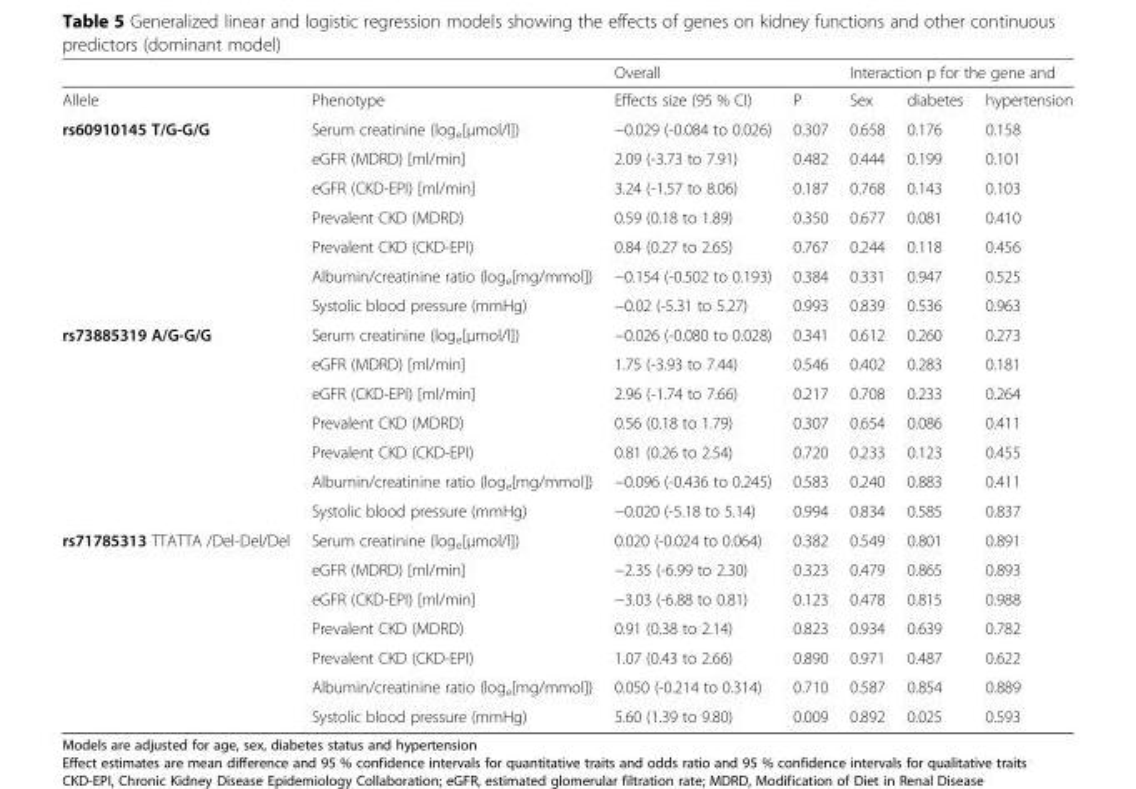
<table><thead><tr><td rowspan="2">Allele</td><td rowspan="2">Phenotype</td><td colspan="2">Overall</td><td colspan="3">Interaction p for the gene and</td></tr><tr><td>Effects size (95 % CI)</td><td>P</td><td>Sex</td><td>diabetes</td><td>hypertension</td></tr></thead><tbody><tr><td rowspan="7">rs60910145 T/G-G/G</td><td>Serum creatinine (log<sub>e</sub>[μmol/l])</td><td>−0.029 (-0.084 to 0.026)</td><td>0.307</td><td>0.658</td><td>0.176</td><td>0.158</td></tr><tr><td>eGFR (MDRD) [ml/min]</td><td>2.09 (-3.73 to 7.91)</td><td>0.482</td><td>0.444</td><td>0.199</td><td>0.101</td></tr><tr><td>eGFR (CKD-EPI) [ml/min]</td><td>3.24 (-1.57 to 8.06)</td><td>0.187</td><td>0.768</td><td>0.143</td><td>0.103</td></tr><tr><td>Prevalent CKD (MDRD)</td><td>0.59 (0.18 to 1.89)</td><td>0.350</td><td>0.677</td><td>0.081</td><td>0.410</td></tr><tr><td>Prevalent CKD (CKD-EPI)</td><td>0.84 (0.27 to 2.65)</td><td>0.767</td><td>0.244</td><td>0.118</td><td>0.456</td></tr><tr><td>Albumin/creatinine ratio (log<sub>e</sub>[mg/mmol])</td><td>−0.154 (-0.502 to 0.193)</td><td>0.384</td><td>0.331</td><td>0.947</td><td>0.525</td></tr><tr><td>Systolic blood pressure (mmHg)</td><td>−0.02 (-5.31 to 5.27)</td><td>0.993</td><td>0.839</td><td>0.536</td><td>0.963</td></tr><tr><td rowspan="7">rs73885319 A/G-G/G</td><td>Serum creatinine (log<sub>e</sub>[μmol/l])</td><td>−0.026 (-0.080 to 0.028)</td><td>0.341</td><td>0.612</td><td>0.260</td><td>0.273</td></tr><tr><td>eGFR (MDRD) [ml/min]</td><td>1.75 (-3.93 to 7.44)</td><td>0.546</td><td>0.402</td><td>0.283</td><td>0.181</td></tr><tr><td>eGFR (CKD-EPI) [ml/min]</td><td>2.96 (-1.74 to 7.66)</td><td>0.217</td><td>0.708</td><td>0.233</td><td>0.264</td></tr><tr><td>Prevalent CKD (MDRD)</td><td>0.56 (0.18 to 1.79)</td><td>0.307</td><td>0.654</td><td>0.086</td><td>0.411</td></tr><tr><td>Prevalent CKD (CKD-EPI)</td><td>0.81 (0.26 to 2.54)</td><td>0.720</td><td>0.233</td><td>0.123</td><td>0.455</td></tr><tr><td>Albumin/creatinine ratio (log<sub>e</sub>[mg/mmol])</td><td>−0.096 (-0.436 to 0.245)</td><td>0.583</td><td>0.240</td><td>0.883</td><td>0.411</td></tr><tr><td>Systolic blood pressure (mmHg)</td><td>−0.020 (-5.18 to 5.14)</td><td>0.994</td><td>0.834</td><td>0.585</td><td>0.837</td></tr><tr><td rowspan="7">rs71785313 TTATTA /Del-Del/Del</td><td>Serum creatinine (log<sub>e</sub>[μmol/l])</td><td>0.020 (-0.024 to 0.064)</td><td>0.382</td><td>0.549</td><td>0.801</td><td>0.891</td></tr><tr><td>eGFR (MDRD) [ml/min]</td><td>−2.35 (-6.99 to 2.30)</td><td>0.323</td><td>0.479</td><td>0.865</td><td>0.893</td></tr><tr><td>eGFR (CKD-EPI) [ml/min]</td><td>−3.03 (-6.88 to 0.81)</td><td>0.123</td><td>0.478</td><td>0.815</td><td>0.988</td></tr><tr><td>Prevalent CKD (MDRD)</td><td>0.91 (0.38 to 2.14)</td><td>0.823</td><td>0.934</td><td>0.639</td><td>0.782</td></tr><tr><td>Prevalent CKD (CKD-EPI)</td><td>1.07 (0.43 to 2.66)</td><td>0.890</td><td>0.971</td><td>0.487</td><td>0.622</td></tr><tr><td>Albumin/creatinine ratio (log<sub>e</sub>[mg/mmol])</td><td>0.050 (-0.214 to 0.314)</td><td>0.710</td><td>0.587</td><td>0.854</td><td>0.889</td></tr><tr><td>Systolic blood pressure (mmHg)</td><td>5.60 (1.39 to 9.80)</td><td>0.009</td><td>0.892</td><td>0.025</td><td>0.593</td></tr></tbody></table>